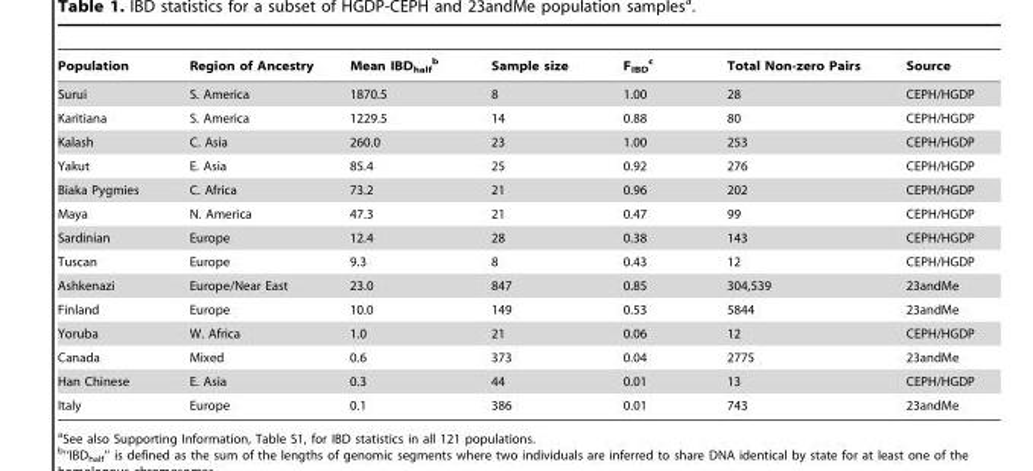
<table><thead><tr><td>Population</td><td>Region of Ancestry</td><td>Mean IBD<sub>half</sub> b</td><td>Sample size</td><td>F<sub>IBD</sub> c</td><td>Total Non-zero Pairs</td><td>Source</td></tr></thead><tbody><tr><td>Surui</td><td>S. America</td><td>1870.5</td><td>8</td><td>1.00</td><td>28</td><td>CEPH/HGDP</td></tr><tr><td>Karitiana</td><td>S. America</td><td>1229.5</td><td>14</td><td>0.88</td><td>80</td><td>CEPH/HGDP</td></tr><tr><td>Kalash</td><td>C. Asia</td><td>260.0</td><td>23</td><td>1.00</td><td>253</td><td>CEPH/HGDP</td></tr><tr><td>Yakut</td><td>E. Asia</td><td>85.4</td><td>25</td><td>0.92</td><td>276</td><td>CEPH/HGDP</td></tr><tr><td>Biaka Pygmies</td><td>C. Africa</td><td>73.2</td><td>21</td><td>0.96</td><td>202</td><td>CEPH/HGDP</td></tr><tr><td>Maya</td><td>N. America</td><td>47.3</td><td>21</td><td>0.47</td><td>99</td><td>CEPH/HGDP</td></tr><tr><td>Sardinian</td><td>Europe</td><td>12.4</td><td>28</td><td>0.38</td><td>143</td><td>CEPH/HGDP</td></tr><tr><td>Tuscan</td><td>Europe</td><td>9.3</td><td>8</td><td>0.43</td><td>12</td><td>CEPH/HGDP</td></tr><tr><td>Ashkenazi</td><td>Europe/Near East</td><td>23.0</td><td>847</td><td>0.85</td><td>304,539</td><td>23andMe</td></tr><tr><td>Finland</td><td>Europe</td><td>10.0</td><td>149</td><td>0.53</td><td>5844</td><td>23andMe</td></tr><tr><td>Yoruba</td><td>W. Africa</td><td>1.0</td><td>21</td><td>0.06</td><td>12</td><td>CEPH/HGDP</td></tr><tr><td>Canada</td><td>Mixed</td><td>0.6</td><td>373</td><td>0.04</td><td>2775</td><td>23andMe</td></tr><tr><td>Han Chinese</td><td>E. Asia</td><td>0.3</td><td>44</td><td>0.01</td><td>13</td><td>CEPH/HGDP</td></tr><tr><td>Italy</td><td>Europe</td><td>0.1</td><td>386</td><td>0.01</td><td>743</td><td>23andMe</td></tr></tbody></table>